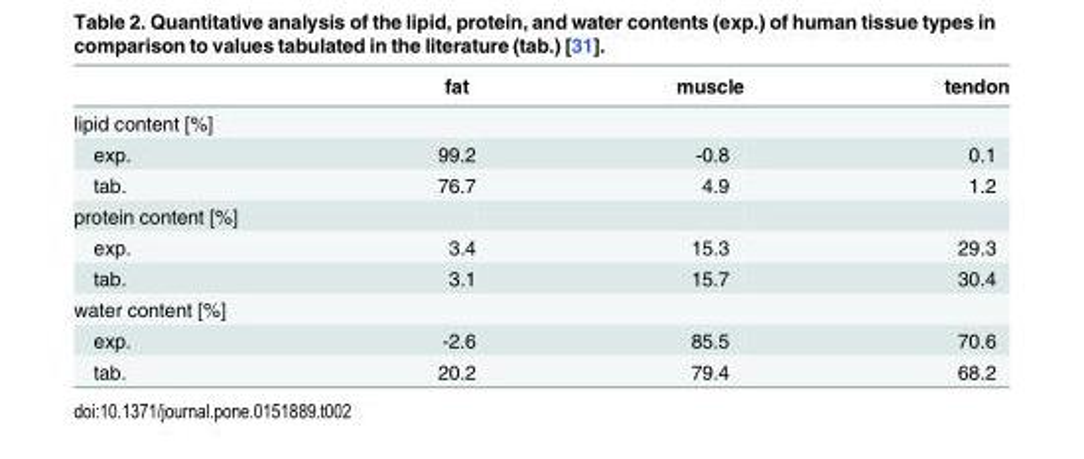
<table><thead><tr><td></td><td>fat</td><td>muscle</td><td>tendon</td></tr></thead><tbody><tr><td colspan="4">lipid content [%]</td></tr><tr><td>exp.</td><td>99.2</td><td>-0.8</td><td>0.1</td></tr><tr><td>tab.</td><td>76.7</td><td>4.9</td><td>1.2</td></tr><tr><td colspan="4">protein content [%]</td></tr><tr><td>exp.</td><td>3.4</td><td>15.3</td><td>29.3</td></tr><tr><td>tab.</td><td>3.1</td><td>15.7</td><td>30.4</td></tr><tr><td colspan="4">water content [%]</td></tr><tr><td>exp.</td><td>-2.6</td><td>85.5</td><td>70.6</td></tr><tr><td>tab.</td><td>20.2</td><td>79.4</td><td>68.2</td></tr></tbody></table>